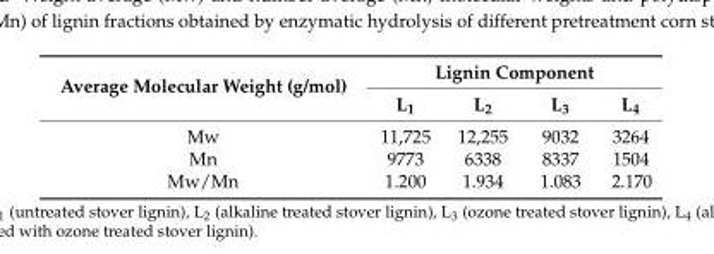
<table><thead><tr><td rowspan="2">Average Molecular Weight (g/mol)</td><td colspan="4">Lignin Component</td></tr><tr><td>L<sub>1</sub></td><td>L<sub>2</sub></td><td>L<sub>3</sub></td><td>L<sub>4</sub></td></tr></thead><tbody><tr><td>Mw</td><td>11,725</td><td>12,255</td><td>9032</td><td>3264</td></tr><tr><td>Mn</td><td>9773</td><td>6338</td><td>8337</td><td>1504</td></tr><tr><td>Mw/Mn</td><td>1.200</td><td>1.934</td><td>1.083</td><td>2.170</td></tr></tbody></table>